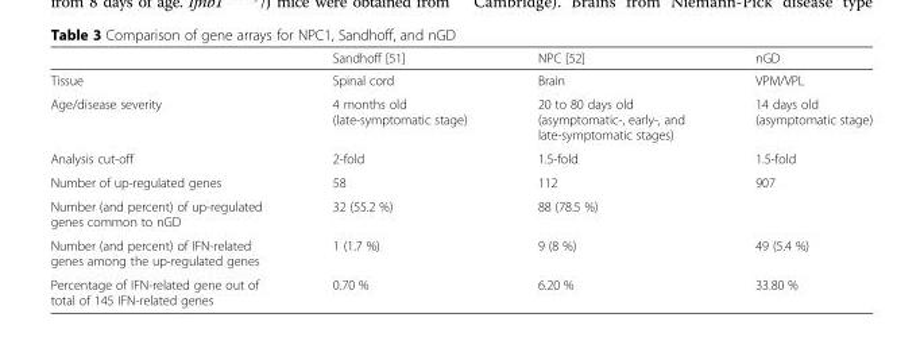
<table><thead><tr><td></td><td>Sandhoff [51]</td><td>NPC [52]</td><td>nGD</td></tr></thead><tbody><tr><td>Tissue</td><td>Spinal cord</td><td>Brain</td><td>VPM/VPL</td></tr><tr><td>Age/disease severity</td><td>4 months old (late-symptomatic stage)</td><td>20 to 80 days old (asymptomatic-, early-, and late-symptomatic stages)</td><td>14 days old (asymptomatic stage)</td></tr><tr><td>Analysis cut-off</td><td>2-fold</td><td>1.5-fold</td><td>1.5-fold</td></tr><tr><td>Number of up-regulated genes</td><td>58</td><td>112</td><td>907</td></tr><tr><td>Number (and percent) of up-regulated genes common to nGD</td><td>32 (55.2 %)</td><td>88 (78.5 %)</td><td></td></tr><tr><td>Number (and percent) of IFN-related genes among the up-regulated genes</td><td>1 (1.7 %)</td><td>9 (8 %)</td><td>49 (5.4 %)</td></tr><tr><td>Percentage of IFN-related gene out of total of 145 IFN-related genes</td><td>0.70 %</td><td>6.20 %</td><td>33.80 %</td></tr></tbody></table>